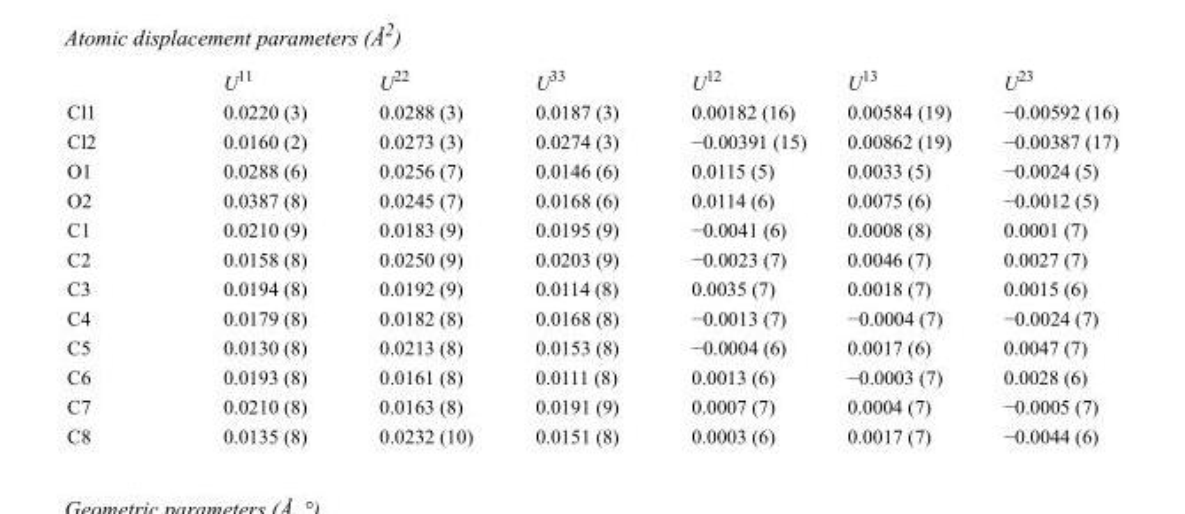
<table><thead><tr><td></td><td>U<sup>11</sup></td><td>U<sup>22</sup></td><td>U<sup>33</sup></td><td>U<sup>12</sup></td><td>U<sup>13</sup></td><td>U<sup>23</sup></td></tr></thead><tbody><tr><td>Cl1</td><td>0.0220 (3)</td><td>0.0288 (3)</td><td>0.0187 (3)</td><td>0.00182 (16)</td><td>0.00584 (19)</td><td>−0.00592 (16)</td></tr><tr><td>Cl2</td><td>0.0160 (2)</td><td>0.0273 (3)</td><td>0.0274 (3)</td><td>−0.00391 (15)</td><td>0.00862 (19)</td><td>−0.00387 (17)</td></tr><tr><td>O1</td><td>0.0288 (6)</td><td>0.0256 (7)</td><td>0.0146 (6)</td><td>0.0115 (5)</td><td>0.0033 (5)</td><td>−0.0024 (5)</td></tr><tr><td>O2</td><td>0.0387 (8)</td><td>0.0245 (7)</td><td>0.0168 (6)</td><td>0.0114 (6)</td><td>0.0075 (6)</td><td>−0.0012 (5)</td></tr><tr><td>C1</td><td>0.0210 (9)</td><td>0.0183 (9)</td><td>0.0195 (9)</td><td>−0.0041 (6)</td><td>0.0008 (8)</td><td>0.0001 (7)</td></tr><tr><td>C2</td><td>0.0158 (8)</td><td>0.0250 (9)</td><td>0.0203 (9)</td><td>−0.0023 (7)</td><td>0.0046 (7)</td><td>0.0027 (7)</td></tr><tr><td>C3</td><td>0.0194 (8)</td><td>0.0192 (9)</td><td>0.0114 (8)</td><td>0.0035 (7)</td><td>0.0018 (7)</td><td>0.0015 (6)</td></tr><tr><td>C4</td><td>0.0179 (8)</td><td>0.0182 (8)</td><td>0.0168 (8)</td><td>−0.0013 (7)</td><td>−0.0004 (7)</td><td>−0.0024 (7)</td></tr><tr><td>C5</td><td>0.0130 (8)</td><td>0.0213 (8)</td><td>0.0153 (8)</td><td>−0.0004 (6)</td><td>0.0017 (6)</td><td>0.0047 (7)</td></tr><tr><td>C6</td><td>0.0193 (8)</td><td>0.0161 (8)</td><td>0.0111 (8)</td><td>0.0013 (6)</td><td>−0.0003 (7)</td><td>0.0028 (6)</td></tr><tr><td>C7</td><td>0.0210 (8)</td><td>0.0163 (8)</td><td>0.0191 (9)</td><td>0.0007 (7)</td><td>0.0004 (7)</td><td>−0.0005 (7)</td></tr><tr><td>C8</td><td>0.0135 (8)</td><td>0.0232 (10)</td><td>0.0151 (8)</td><td>0.0003 (6)</td><td>0.0017 (7)</td><td>−0.0044 (6)</td></tr></tbody></table>